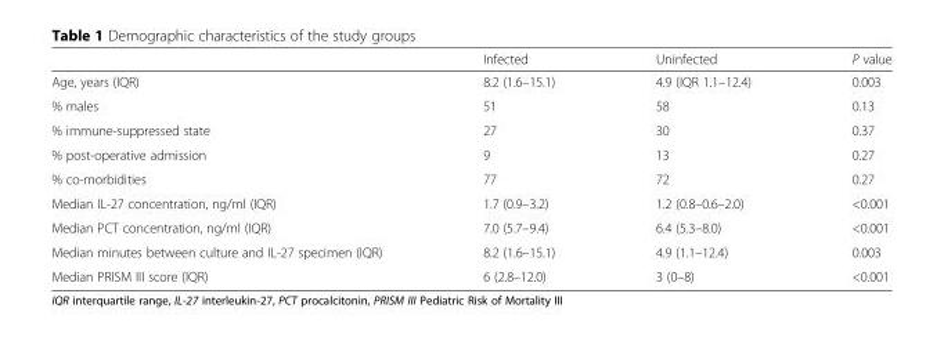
<table><thead><tr><td></td><td>Infected</td><td>Uninfected</td><td>P value</td></tr></thead><tbody><tr><td>Age, years (IQR)</td><td>8.2 (1.6–15.1)</td><td>4.9 (IQR 1.1–12.4)</td><td>0.003</td></tr><tr><td>% males</td><td>51</td><td>58</td><td>0.13</td></tr><tr><td>% immune-suppressed state</td><td>27</td><td>30</td><td>0.37</td></tr><tr><td>% post-operative admission</td><td>9</td><td>13</td><td>0.27</td></tr><tr><td>% co-morbidities</td><td>77</td><td>72</td><td>0.27</td></tr><tr><td>Median IL-27 concentration, ng/ml (IQR)</td><td>1.7 (0.9–3.2)</td><td>1.2 (0.8–0.6–2.0)</td><td>&lt;0.001</td></tr><tr><td>Median PCT concentration, ng/ml (IQR)</td><td>7.0 (5.7–9.4)</td><td>6.4 (5.3–8.0)</td><td>&lt;0.001</td></tr><tr><td>Median minutes between culture and IL-27 specimen (IQR)</td><td>8.2 (1.6–15.1)</td><td>4.9 (1.1–12.4)</td><td>0.003</td></tr><tr><td>Median PRISM III score (IQR)</td><td>6 (2.8–12.0)</td><td>3 (0–8)</td><td>&lt;0.001</td></tr></tbody></table>